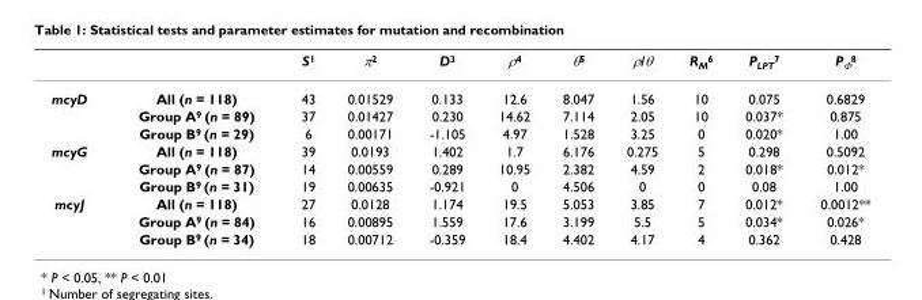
<table><thead><tr><td></td><td></td><td>S<sup>1</sup></td><td>π<sup>2</sup></td><td>D<sup>3</sup></td><td>ρ<sup>4</sup></td><td>θ<sup>5</sup></td><td>ρ/θ</td><td>R<sub>M</sub><sup>6</sup></td><td>P<sub>LPT</sub><sup>7</sup></td><td>P<sub>Φ</sub><sup>8</sup></td></tr></thead><tbody><tr><td rowspan="3">mcyD</td><td>All (n = 118)</td><td>43</td><td>0.01529</td><td>0.133</td><td>12.6</td><td>8.047</td><td>1.56</td><td>10</td><td>0.075</td><td>0.6829</td></tr><tr><td>Group A<sup>9</sup> (n = 89)</td><td>37</td><td>0.01427</td><td>0.230</td><td>14.62</td><td>7.114</td><td>2.05</td><td>10</td><td>0.037*</td><td>0.875</td></tr><tr><td>Group B<sup>9</sup> (n = 29)</td><td>6</td><td>0.00171</td><td>-1.105</td><td>4.97</td><td>1.528</td><td>3.25</td><td>0</td><td>0.020*</td><td>1.00</td></tr><tr><td rowspan="3">mcyG</td><td>All (n = 118)</td><td>39</td><td>0.0193</td><td>1.402</td><td>1.7</td><td>6.176</td><td>0.275</td><td>5</td><td>0.298</td><td>0.5092</td></tr><tr><td>Group A<sup>9</sup> (n = 87)</td><td>14</td><td>0.00559</td><td>0.289</td><td>10.95</td><td>2.382</td><td>4.59</td><td>2</td><td>0.018*</td><td>0.012*</td></tr><tr><td>Group B<sup>9</sup> (n = 31)</td><td>19</td><td>0.00635</td><td>-0.921</td><td>0</td><td>4.506</td><td>0</td><td>0</td><td>0.08</td><td>1.00</td></tr><tr><td rowspan="3">mcyJ</td><td>All (n = 118)</td><td>27</td><td>0.0128</td><td>1.174</td><td>19.5</td><td>5.053</td><td>3.85</td><td>7</td><td>0.012*</td><td>0.0012**</td></tr><tr><td>Group A<sup>9</sup> (n = 84)</td><td>16</td><td>0.00895</td><td>1.559</td><td>17.6</td><td>3.199</td><td>5.5</td><td>5</td><td>0.034*</td><td>0.026*</td></tr><tr><td>Group B<sup>9</sup> (n = 34)</td><td>18</td><td>0.00712</td><td>-0.359</td><td>18.4</td><td>4.402</td><td>4.17</td><td>4</td><td>0.362</td><td>0.428</td></tr></tbody></table>